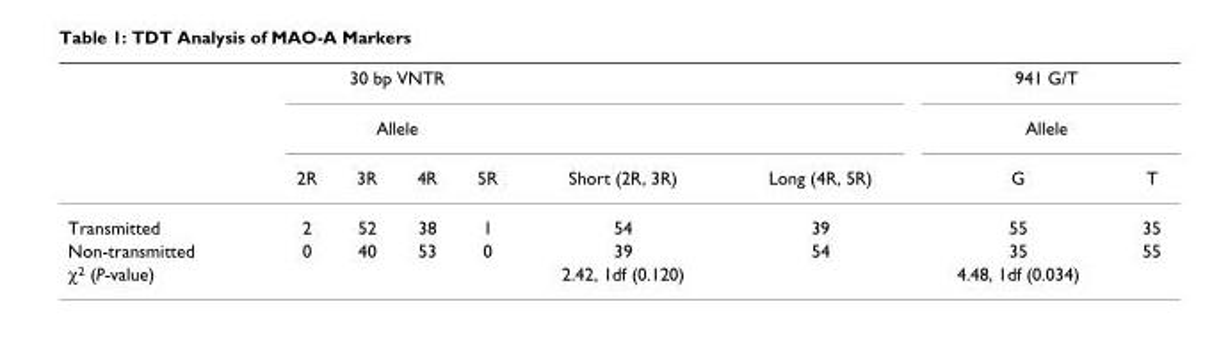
<table><thead><tr><td rowspan="3"></td><td rowspan="2" colspan="4">30 bp VNTR Allele</td><td rowspan="3">Short (2R, 3R)</td><td rowspan="3">Long (4R, 5R)</td><td rowspan="2" colspan="2">941 G/T Allele</td></tr><tr></tr><tr><td>2R</td><td>3R</td><td>4R</td><td>5R</td><td>G</td><td>T</td></tr></thead><tbody><tr><td>Transmitted</td><td>2</td><td>52</td><td>38</td><td>1</td><td>54</td><td>39</td><td>55</td><td>35</td></tr><tr><td>Non-transmitted</td><td>0</td><td>40</td><td>53</td><td>0</td><td>39</td><td>54</td><td>35</td><td>55</td></tr><tr><td>χ<sup>2</sup> (P-value)</td><td></td><td></td><td></td><td></td><td>2.42, 1df (0.120)</td><td></td><td>4.48, 1df (0.034)</td><td></td></tr></tbody></table>